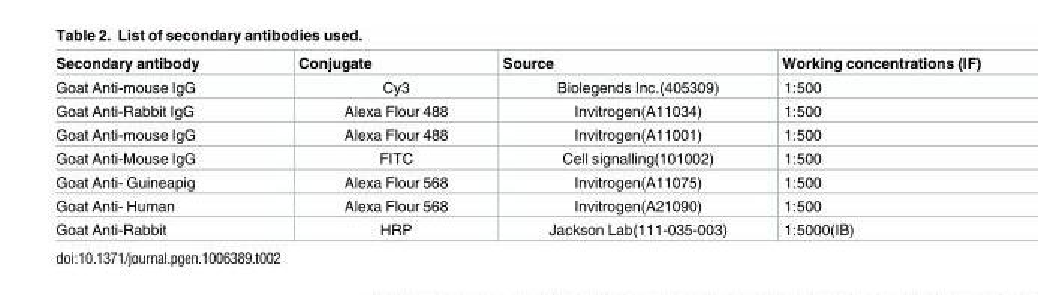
<table><thead><tr><td>Secondary antibody</td><td>Conjugate</td><td>Source</td><td>Working concentrations (IF)</td></tr></thead><tbody><tr><td>Goat Anti-mouse IgG</td><td>Cy3</td><td>Biolegends Inc.(405309)</td><td>1:500</td></tr><tr><td>Goat Anti-Rabbit IgG</td><td>Alexa Flour 488</td><td>Invitrogen(A11034)</td><td>1:500</td></tr><tr><td>Goat Anti-mouse IgG</td><td>Alexa Flour 488</td><td>Invitrogen(A11001)</td><td>1:500</td></tr><tr><td>Goat Anti-Mouse IgG</td><td>FITC</td><td>Cell signalling(101002)</td><td>1:500</td></tr><tr><td>Goat Anti- Guineapig</td><td>Alexa Flour 568</td><td>Invitrogen(A11075)</td><td>1:500</td></tr><tr><td>Goat Anti- Human</td><td>Alexa Flour 568</td><td>Invitrogen(A21090)</td><td>1:500</td></tr><tr><td>Goat Anti-Rabbit</td><td>HRP</td><td>Jackson Lab(111-035-003)</td><td>1:5000(IB)</td></tr></tbody></table>